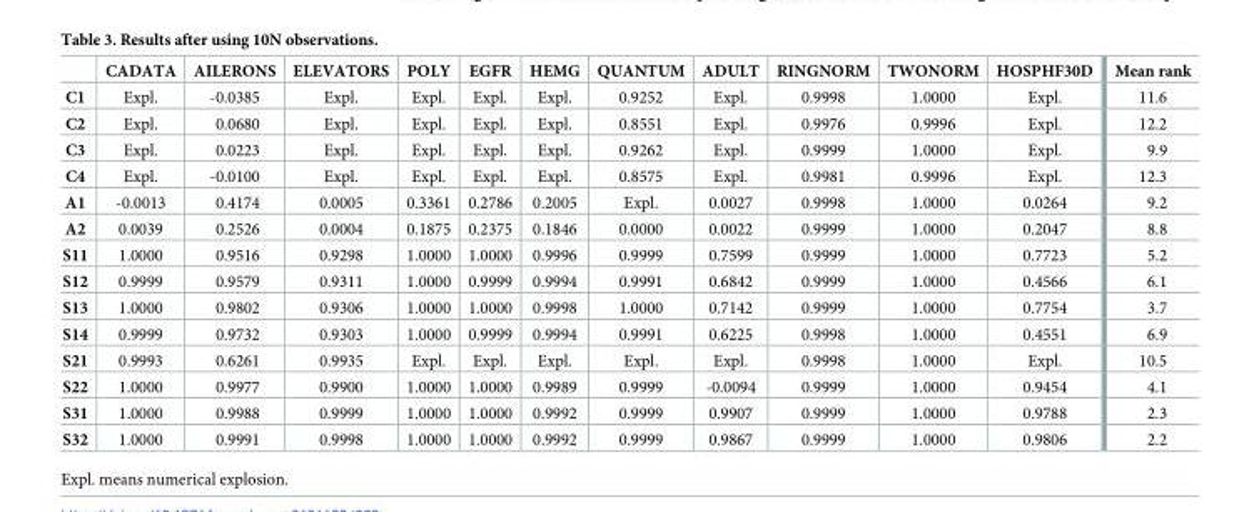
<table><thead><tr><td></td><td>CADATA</td><td>AILERONS</td><td>ELEVATORS</td><td>POLY</td><td>EGFR</td><td>HEMG</td><td>QUANTUM</td><td>ADULT</td><td>RINGNORM</td><td>TWONORM</td><td>HOSPHF30D</td><td>Mean rank</td></tr></thead><tbody><tr><td>C1</td><td>Expl.</td><td>-0.0385</td><td>Expl.</td><td>Expl.</td><td>Expl.</td><td>Expl.</td><td>0.9252</td><td>Expl.</td><td>0.9998</td><td>1.0000</td><td>Expl.</td><td>11.6</td></tr><tr><td>C2</td><td>Expl.</td><td>0.0680</td><td>Expl.</td><td>Expl.</td><td>Expl.</td><td>Expl.</td><td>0.8551</td><td>Expl.</td><td>0.9976</td><td>0.9996</td><td>Expl.</td><td>12.2</td></tr><tr><td>C3</td><td>Expl.</td><td>0.0223</td><td>Expl.</td><td>Expl.</td><td>Expl.</td><td>Expl.</td><td>0.9262</td><td>Expl.</td><td>0.9999</td><td>1.0000</td><td>Expl.</td><td>9.9</td></tr><tr><td>C4</td><td>Expl.</td><td>-0.0100</td><td>Expl.</td><td>Expl.</td><td>Expl.</td><td>Expl.</td><td>0.8575</td><td>Expl.</td><td>0.9981</td><td>0.9996</td><td>Expl.</td><td>12.3</td></tr><tr><td>A1</td><td>-0.0013</td><td>0.4174</td><td>0.0005</td><td>0.3361</td><td>0.2786</td><td>0.2005</td><td>Expl.</td><td>0.0027</td><td>0.9998</td><td>1.0000</td><td>0.0264</td><td>9.2</td></tr><tr><td>A2</td><td>0.0039</td><td>0.2526</td><td>0.0004</td><td>0.1875</td><td>0.2375</td><td>0.1846</td><td>0.0000</td><td>0.0022</td><td>0.9999</td><td>1.0000</td><td>0.2047</td><td>8.8</td></tr><tr><td>S11</td><td>1.0000</td><td>0.9516</td><td>0.9298</td><td>1.0000</td><td>1.0000</td><td>0.9996</td><td>0.9999</td><td>0.7599</td><td>0.9999</td><td>1.0000</td><td>0.7723</td><td>5.2</td></tr><tr><td>S12</td><td>0.9999</td><td>0.9579</td><td>0.9311</td><td>1.0000</td><td>0.9999</td><td>0.9994</td><td>0.9991</td><td>0.6842</td><td>0.9999</td><td>1.0000</td><td>0.4566</td><td>6.1</td></tr><tr><td>S13</td><td>1.0000</td><td>0.9802</td><td>0.9306</td><td>1.0000</td><td>1.0000</td><td>0.9998</td><td>1.0000</td><td>0.7142</td><td>0.9999</td><td>1.0000</td><td>0.7754</td><td>3.7</td></tr><tr><td>S14</td><td>0.9999</td><td>0.9732</td><td>0.9303</td><td>1.0000</td><td>0.9999</td><td>0.9994</td><td>0.9991</td><td>0.6225</td><td>0.9998</td><td>1.0000</td><td>0.4551</td><td>6.9</td></tr><tr><td>S21</td><td>0.9993</td><td>0.6261</td><td>0.9935</td><td>Expl.</td><td>Expl.</td><td>Expl.</td><td>Expl.</td><td>Expl.</td><td>0.9998</td><td>1.0000</td><td>Expl.</td><td>10.5</td></tr><tr><td>S22</td><td>1.0000</td><td>0.9977</td><td>0.9900</td><td>1.0000</td><td>1.0000</td><td>0.9989</td><td>0.9999</td><td>-0.0094</td><td>0.9999</td><td>1.0000</td><td>0.9454</td><td>4.1</td></tr><tr><td>S31</td><td>1.0000</td><td>0.9988</td><td>0.9999</td><td>1.0000</td><td>1.0000</td><td>0.9992</td><td>0.9999</td><td>0.9907</td><td>0.9999</td><td>1.0000</td><td>0.9788</td><td>2.3</td></tr><tr><td>S32</td><td>1.0000</td><td>0.9991</td><td>0.9998</td><td>1.0000</td><td>1.0000</td><td>0.9992</td><td>0.9999</td><td>0.9867</td><td>0.9999</td><td>1.0000</td><td>0.9806</td><td>2.2</td></tr></tbody></table>